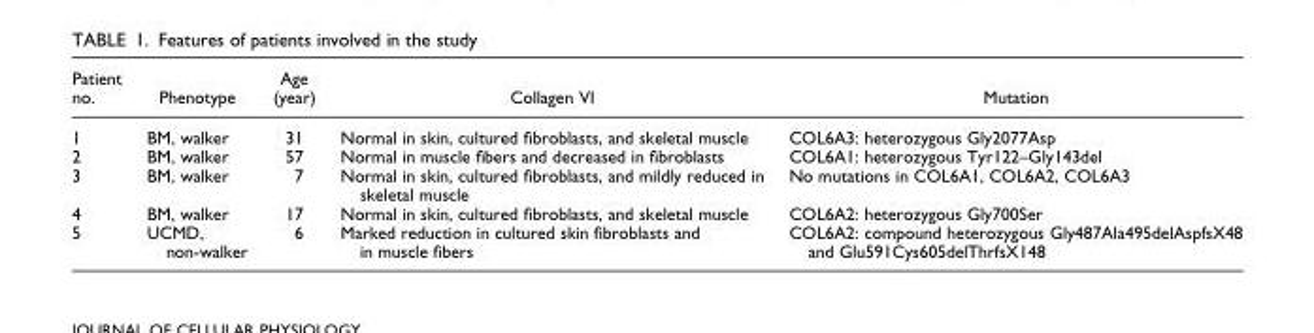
<table><thead><tr><td>Patient no.</td><td>Phenotype</td><td>Age (year)</td><td>Collagen VI</td><td>Mutation</td></tr></thead><tbody><tr><td>1</td><td>BM, walker</td><td>31</td><td>Normal in skin, cultured fibroblasts, and skeletal muscle</td><td>COL6A3: heterozygous Gly2077Asp</td></tr><tr><td>2</td><td>BM, walker</td><td>57</td><td>Normal in muscle fibers and decreased in fibroblasts</td><td>COL6A1: heterozygous Tyr122–Gly143del</td></tr><tr><td>3</td><td>BM, walker</td><td>7</td><td>Normal in skin, cultured fibroblasts, and mildly reduced in skeletal muscle</td><td>No mutations in COL6A1, COL6A2, COL6A3</td></tr><tr><td>4</td><td>BM, walker</td><td>17</td><td>Normal in skin, cultured fibroblasts, and skeletal muscle</td><td>COL6A2: heterozygous Gly700Ser</td></tr><tr><td>5</td><td>UCMD, non-walker</td><td>6</td><td>Marked reduction in cultured skin fibroblasts and in muscle fibers</td><td>COL6A2: compound heterozygous Gly487Ala495delAspfsX48 and Glu591Cys605delThrfsX148</td></tr></tbody></table>